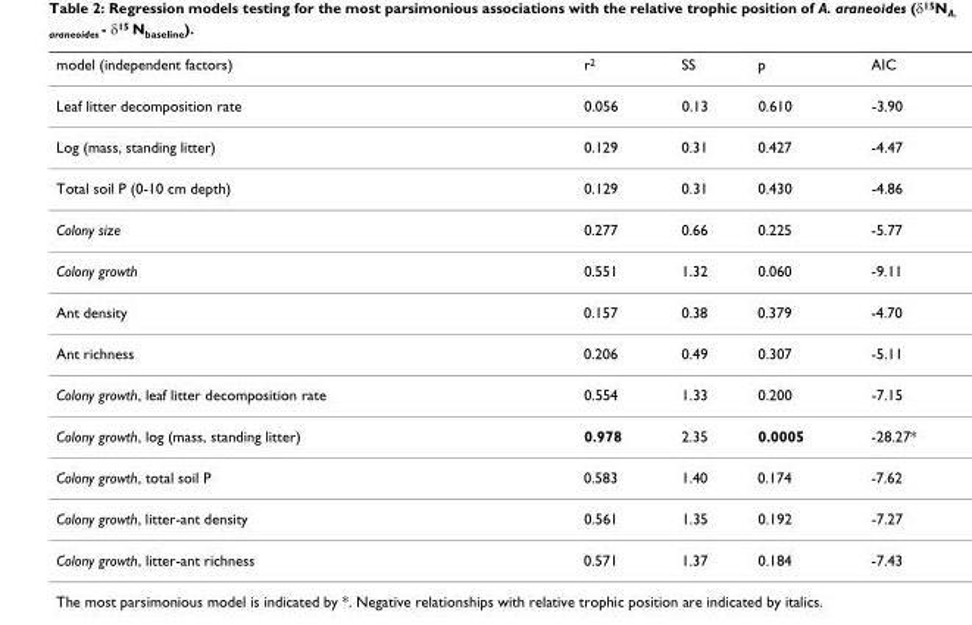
<table><thead><tr><td>model (independent factors)</td><td>r<sup>2</sup></td><td>SS</td><td>p</td><td>AIC</td></tr></thead><tbody><tr><td>Leaf litter decomposition rate</td><td>0.056</td><td>0.13</td><td>0.610</td><td>-3.90</td></tr><tr><td>Log (mass, standing litter)</td><td>0.129</td><td>0.31</td><td>0.427</td><td>-4.47</td></tr><tr><td>Total soil P (0-10 cm depth)</td><td>0.129</td><td>0.31</td><td>0.430</td><td>-4.86</td></tr><tr><td>Colony size</td><td>0.277</td><td>0.66</td><td>0.225</td><td>-5.77</td></tr><tr><td>Colony growth</td><td>0.551</td><td>1.32</td><td>0.060</td><td>-9.11</td></tr><tr><td>Ant density</td><td>0.157</td><td>0.38</td><td>0.379</td><td>-4.70</td></tr><tr><td>Ant richness</td><td>0.206</td><td>0.49</td><td>0.307</td><td>-5.11</td></tr><tr><td>Colony growth, leaf litter decomposition rate</td><td>0.554</td><td>1.33</td><td>0.200</td><td>-7.15</td></tr><tr><td>Colony growth, log (mass, standing litter)</td><td>0.978</td><td>2.35</td><td>0.0005</td><td>-28.27*</td></tr><tr><td>Colony growth, total soil P</td><td>0.583</td><td>1.40</td><td>0.174</td><td>-7.62</td></tr><tr><td>Colony growth, litter-ant density</td><td>0.561</td><td>1.35</td><td>0.192</td><td>-7.27</td></tr><tr><td>Colony growth, litter-ant richness</td><td>0.571</td><td>1.37</td><td>0.184</td><td>-7.43</td></tr></tbody></table>